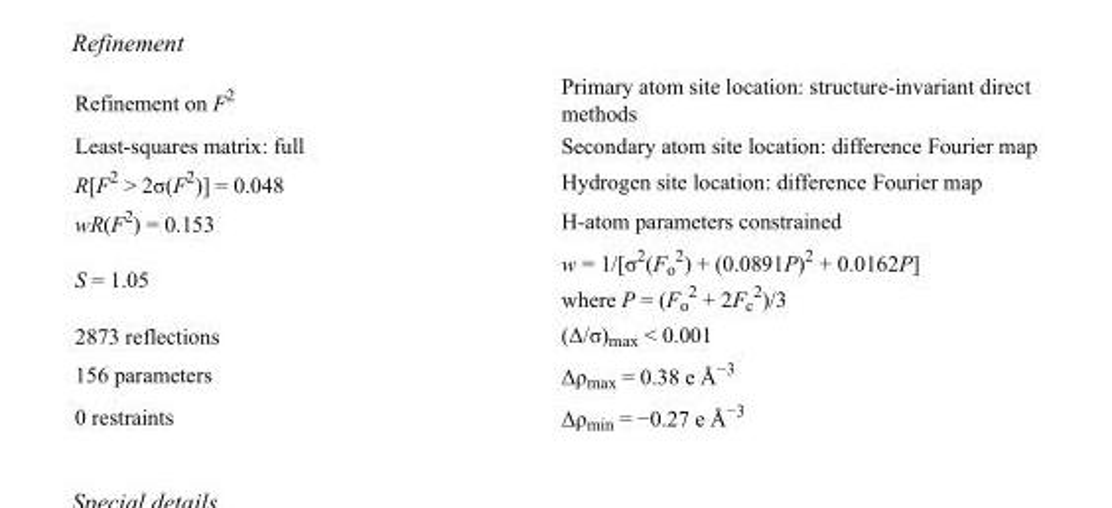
<table><tbody><tr><td>Refinement on F<sup>2</sup></td><td>Primary atom site location: structure-invariant direct methods</td></tr><tr><td>Least-squares matrix: full</td><td>Secondary atom site location: difference Fourier map</td></tr><tr><td>R[F<sup>2</sup> &gt; 2σ(F<sup>2</sup>)] = 0.048</td><td>Hydrogen site location: difference Fourier map</td></tr><tr><td>wR(F<sup>2</sup>) = 0.153</td><td>H-atom parameters constrained</td></tr><tr><td>S = 1.05</td><td>w = 1/[σ<sup>2</sup>(F<sub>o</sub> <sup>2</sup>) + (0.0891P)<sup>2</sup> + 0.0162P] where P = (F<sub>o</sub> <sup>2</sup> + 2F<sub>c</sub> <sup>2</sup>)/3</td></tr><tr><td>2873 reflections</td><td>(Δ/σ)<sub>max</sub> &lt; 0.001</td></tr><tr><td>156 parameters</td><td>Δρ<sub>max</sub> = 0.38 e Å<sup>−3</sup></td></tr><tr><td>0 restraints</td><td>Δρ<sub>min</sub> = −0.27 e Å<sup>−3</sup></td></tr></tbody></table>